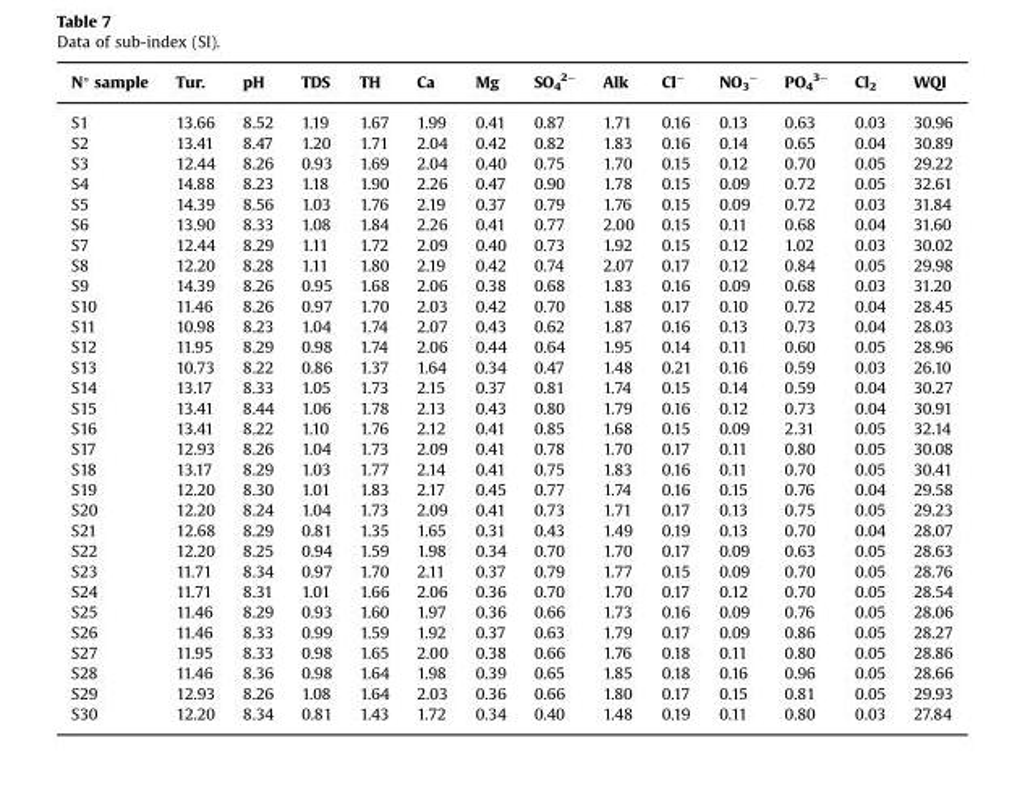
<table><thead><tr><td>N° sample</td><td>Tur.</td><td>pH</td><td>TDS</td><td>TH</td><td>Ca</td><td>Mg</td><td>SO<sub>4</sub> <sup>2−</sup></td><td>Alk</td><td>Cl<sup>−</sup></td><td>NO<sub>3</sub> <sup>−</sup></td><td>PO<sub>4</sub> <sup>3−</sup></td><td>Cl<sub>2</sub></td><td>WQI</td></tr></thead><tbody><tr><td>S1</td><td>13.66</td><td>8.52</td><td>1.19</td><td>1.67</td><td>1.99</td><td>0.41</td><td>0.87</td><td>1.71</td><td>0.16</td><td>0.13</td><td>0.63</td><td>0.03</td><td>30.96</td></tr><tr><td>S2</td><td>13.41</td><td>8.47</td><td>1.20</td><td>1.71</td><td>2.04</td><td>0.42</td><td>0.82</td><td>1.83</td><td>0.16</td><td>0.14</td><td>0.65</td><td>0.04</td><td>30.89</td></tr><tr><td>S3</td><td>12.44</td><td>8.26</td><td>0.93</td><td>1.69</td><td>2.04</td><td>0.40</td><td>0.75</td><td>1.70</td><td>0.15</td><td>0.12</td><td>0.70</td><td>0.05</td><td>29.22</td></tr><tr><td>S4</td><td>14.88</td><td>8.23</td><td>1.18</td><td>1.90</td><td>2.26</td><td>0.47</td><td>0.90</td><td>1.78</td><td>0.15</td><td>0.09</td><td>0.72</td><td>0.05</td><td>32.61</td></tr><tr><td>S5</td><td>14.39</td><td>8.56</td><td>1.03</td><td>1.76</td><td>2.19</td><td>0.37</td><td>0.79</td><td>1.76</td><td>0.15</td><td>0.09</td><td>0.72</td><td>0.03</td><td>31.84</td></tr><tr><td>S6</td><td>13.90</td><td>8.33</td><td>1.08</td><td>1.84</td><td>2.26</td><td>0.41</td><td>0.77</td><td>2.00</td><td>0.15</td><td>0.11</td><td>0.68</td><td>0.04</td><td>31.60</td></tr><tr><td>S7</td><td>12.44</td><td>8.29</td><td>1.11</td><td>1.72</td><td>2.09</td><td>0.40</td><td>0.73</td><td>1.92</td><td>0.15</td><td>0.12</td><td>1.02</td><td>0.03</td><td>30.02</td></tr><tr><td>S8</td><td>12.20</td><td>8.28</td><td>1.11</td><td>1.80</td><td>2.19</td><td>0.42</td><td>0.74</td><td>2.07</td><td>0.17</td><td>0.12</td><td>0.84</td><td>0.05</td><td>29.98</td></tr><tr><td>S9</td><td>14.39</td><td>8.26</td><td>0.95</td><td>1.68</td><td>2.06</td><td>0.38</td><td>0.68</td><td>1.83</td><td>0.16</td><td>0.09</td><td>0.68</td><td>0.03</td><td>31.20</td></tr><tr><td>S10</td><td>11.46</td><td>8.26</td><td>0.97</td><td>1.70</td><td>2.03</td><td>0.42</td><td>0.70</td><td>1.88</td><td>0.17</td><td>0.10</td><td>0.72</td><td>0.04</td><td>28.45</td></tr><tr><td>S11</td><td>10.98</td><td>8.23</td><td>1.04</td><td>1.74</td><td>2.07</td><td>0.43</td><td>0.62</td><td>1.87</td><td>0.16</td><td>0.13</td><td>0.73</td><td>0.04</td><td>28.03</td></tr><tr><td>S12</td><td>11.95</td><td>8.29</td><td>0.98</td><td>1.74</td><td>2.06</td><td>0.44</td><td>0.64</td><td>1.95</td><td>0.14</td><td>0.11</td><td>0.60</td><td>0.05</td><td>28.96</td></tr><tr><td>S13</td><td>10.73</td><td>8.22</td><td>0.86</td><td>1.37</td><td>1.64</td><td>0.34</td><td>0.47</td><td>1.48</td><td>0.21</td><td>0.16</td><td>0.59</td><td>0.03</td><td>26.10</td></tr><tr><td>S14</td><td>13.17</td><td>8.33</td><td>1.05</td><td>1.73</td><td>2.15</td><td>0.37</td><td>0.81</td><td>1.74</td><td>0.15</td><td>0.14</td><td>0.59</td><td>0.04</td><td>30.27</td></tr><tr><td>S15</td><td>13.41</td><td>8.44</td><td>1.06</td><td>1.78</td><td>2.13</td><td>0.43</td><td>0.80</td><td>1.79</td><td>0.16</td><td>0.12</td><td>0.73</td><td>0.04</td><td>30.91</td></tr><tr><td>S16</td><td>13.41</td><td>8.22</td><td>1.10</td><td>1.76</td><td>2.12</td><td>0.41</td><td>0.85</td><td>1.68</td><td>0.15</td><td>0.09</td><td>2.31</td><td>0.05</td><td>32.14</td></tr><tr><td>S17</td><td>12.93</td><td>8.26</td><td>1.04</td><td>1.73</td><td>2.09</td><td>0.41</td><td>0.78</td><td>1.70</td><td>0.17</td><td>0.11</td><td>0.80</td><td>0.05</td><td>30.08</td></tr><tr><td>S18</td><td>13.17</td><td>8.29</td><td>1.03</td><td>1.77</td><td>2.14</td><td>0.41</td><td>0.75</td><td>1.83</td><td>0.16</td><td>0.11</td><td>0.70</td><td>0.05</td><td>30.41</td></tr><tr><td>S19</td><td>12.20</td><td>8.30</td><td>1.01</td><td>1.83</td><td>2.17</td><td>0.45</td><td>0.77</td><td>1.74</td><td>0.16</td><td>0.15</td><td>0.76</td><td>0.04</td><td>29.58</td></tr><tr><td>S20</td><td>12.20</td><td>8.24</td><td>1.04</td><td>1.73</td><td>2.09</td><td>0.41</td><td>0.73</td><td>1.71</td><td>0.17</td><td>0.13</td><td>0.75</td><td>0.05</td><td>29.23</td></tr><tr><td>S21</td><td>12.68</td><td>8.29</td><td>0.81</td><td>1.35</td><td>1.65</td><td>0.31</td><td>0.43</td><td>1.49</td><td>0.19</td><td>0.13</td><td>0.70</td><td>0.04</td><td>28.07</td></tr><tr><td>S22</td><td>12.20</td><td>8.25</td><td>0.94</td><td>1.59</td><td>1.98</td><td>0.34</td><td>0.70</td><td>1.70</td><td>0.17</td><td>0.09</td><td>0.63</td><td>0.05</td><td>28.63</td></tr><tr><td>S23</td><td>11.71</td><td>8.34</td><td>0.97</td><td>1.70</td><td>2.11</td><td>0.37</td><td>0.79</td><td>1.77</td><td>0.15</td><td>0.09</td><td>0.70</td><td>0.05</td><td>28.76</td></tr><tr><td>S24</td><td>11.71</td><td>8.31</td><td>1.01</td><td>1.66</td><td>2.06</td><td>0.36</td><td>0.70</td><td>1.70</td><td>0.17</td><td>0.12</td><td>0.70</td><td>0.05</td><td>28.54</td></tr><tr><td>S25</td><td>11.46</td><td>8.29</td><td>0.93</td><td>1.60</td><td>1.97</td><td>0.36</td><td>0.66</td><td>1.73</td><td>0.16</td><td>0.09</td><td>0.76</td><td>0.05</td><td>28.06</td></tr><tr><td>S26</td><td>11.46</td><td>8.33</td><td>0.99</td><td>1.59</td><td>1.92</td><td>0.37</td><td>0.63</td><td>1.79</td><td>0.17</td><td>0.09</td><td>0.86</td><td>0.05</td><td>28.27</td></tr><tr><td>S27</td><td>11.95</td><td>8.33</td><td>0.98</td><td>1.65</td><td>2.00</td><td>0.38</td><td>0.66</td><td>1.76</td><td>0.18</td><td>0.11</td><td>0.80</td><td>0.05</td><td>28.86</td></tr><tr><td>S28</td><td>11.46</td><td>8.36</td><td>0.98</td><td>1.64</td><td>1.98</td><td>0.39</td><td>0.65</td><td>1.85</td><td>0.18</td><td>0.16</td><td>0.96</td><td>0.05</td><td>28.66</td></tr><tr><td>S29</td><td>12.93</td><td>8.26</td><td>1.08</td><td>1.64</td><td>2.03</td><td>0.36</td><td>0.66</td><td>1.80</td><td>0.17</td><td>0.15</td><td>0.81</td><td>0.05</td><td>29.93</td></tr><tr><td>S30</td><td>12.20</td><td>8.34</td><td>0.81</td><td>1.43</td><td>1.72</td><td>0.34</td><td>0.40</td><td>1.48</td><td>0.19</td><td>0.11</td><td>0.80</td><td>0.03</td><td>27.84</td></tr></tbody></table>